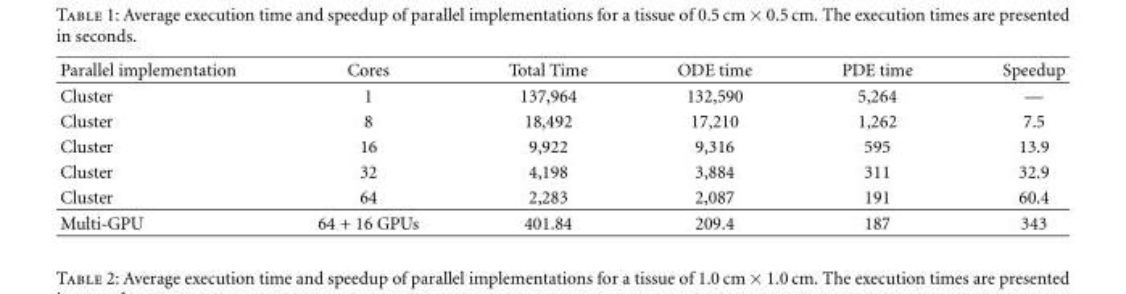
<table><thead><tr><td>Parallel implementation</td><td>Cores</td><td>Total Time</td><td>ODE time</td><td>PDE time</td><td>Speedup</td></tr></thead><tbody><tr><td>Cluster</td><td>1</td><td>137,964</td><td>132,590</td><td>5,264</td><td>—</td></tr><tr><td>Cluster</td><td>8</td><td>18,492</td><td>17,210</td><td>1,262</td><td>7.5</td></tr><tr><td>Cluster</td><td>16</td><td>9,922</td><td>9,316</td><td>595</td><td>13.9</td></tr><tr><td>Cluster</td><td>32</td><td>4,198</td><td>3,884</td><td>311</td><td>32.9</td></tr><tr><td>Cluster</td><td>64</td><td>2,283</td><td>2,087</td><td>191</td><td>60.4</td></tr><tr><td>Multi-GPU</td><td>64 + 16 GPUs</td><td>401.84</td><td>209.4</td><td>187</td><td>343</td></tr></tbody></table>